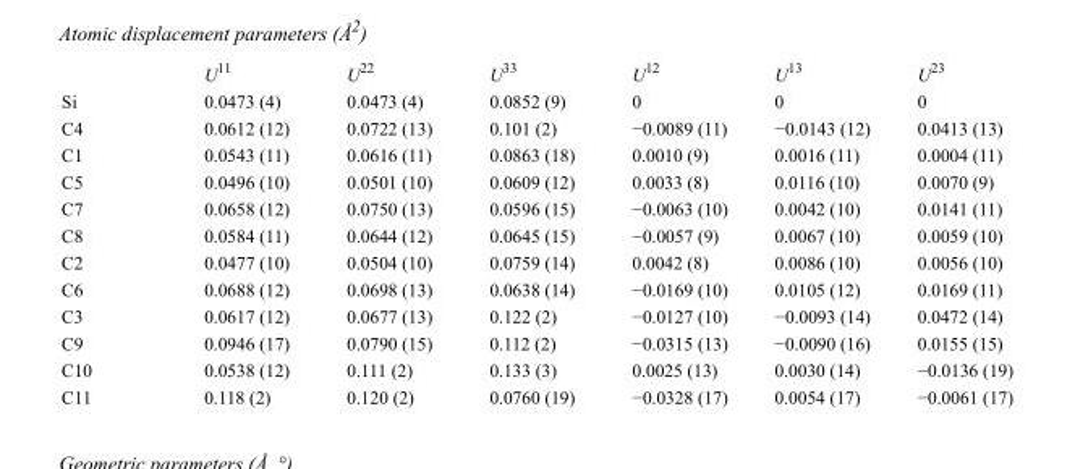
<table><thead><tr><td></td><td>U<sup>11</sup></td><td>U<sup>22</sup></td><td>U<sup>33</sup></td><td>U<sup>12</sup></td><td>U<sup>13</sup></td><td>U<sup>23</sup></td></tr></thead><tbody><tr><td>Si</td><td>0.0473 (4)</td><td>0.0473 (4)</td><td>0.0852 (9)</td><td>0</td><td>0</td><td>0</td></tr><tr><td>C4</td><td>0.0612 (12)</td><td>0.0722 (13)</td><td>0.101 (2)</td><td>−0.0089 (11)</td><td>−0.0143 (12)</td><td>0.0413 (13)</td></tr><tr><td>C1</td><td>0.0543 (11)</td><td>0.0616 (11)</td><td>0.0863 (18)</td><td>0.0010 (9)</td><td>0.0016 (11)</td><td>0.0004 (11)</td></tr><tr><td>C5</td><td>0.0496 (10)</td><td>0.0501 (10)</td><td>0.0609 (12)</td><td>0.0033 (8)</td><td>0.0116 (10)</td><td>0.0070 (9)</td></tr><tr><td>C7</td><td>0.0658 (12)</td><td>0.0750 (13)</td><td>0.0596 (15)</td><td>−0.0063 (10)</td><td>0.0042 (10)</td><td>0.0141 (11)</td></tr><tr><td>C8</td><td>0.0584 (11)</td><td>0.0644 (12)</td><td>0.0645 (15)</td><td>−0.0057 (9)</td><td>0.0067 (10)</td><td>0.0059 (10)</td></tr><tr><td>C2</td><td>0.0477 (10)</td><td>0.0504 (10)</td><td>0.0759 (14)</td><td>0.0042 (8)</td><td>0.0086 (10)</td><td>0.0056 (10)</td></tr><tr><td>C6</td><td>0.0688 (12)</td><td>0.0698 (13)</td><td>0.0638 (14)</td><td>−0.0169 (10)</td><td>0.0105 (12)</td><td>0.0169 (11)</td></tr><tr><td>C3</td><td>0.0617 (12)</td><td>0.0677 (13)</td><td>0.122 (2)</td><td>−0.0127 (10)</td><td>−0.0093 (14)</td><td>0.0472 (14)</td></tr><tr><td>C9</td><td>0.0946 (17)</td><td>0.0790 (15)</td><td>0.112 (2)</td><td>−0.0315 (13)</td><td>−0.0090 (16)</td><td>0.0155 (15)</td></tr><tr><td>C10</td><td>0.0538 (12)</td><td>0.111 (2)</td><td>0.133 (3)</td><td>0.0025 (13)</td><td>0.0030 (14)</td><td>−0.0136 (19)</td></tr><tr><td>C11</td><td>0.118 (2)</td><td>0.120 (2)</td><td>0.0760 (19)</td><td>−0.0328 (17)</td><td>0.0054 (17)</td><td>−0.0061 (17)</td></tr></tbody></table>